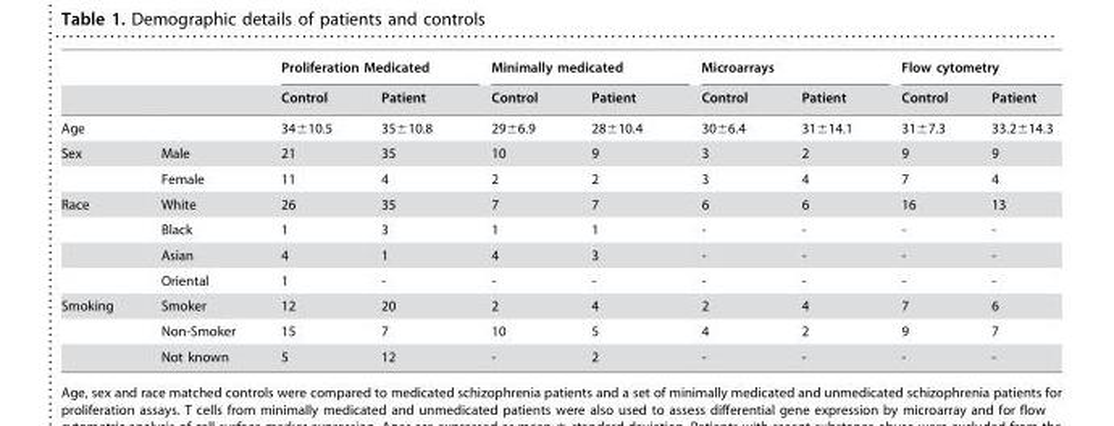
<table><thead><tr><td rowspan="2"></td><td rowspan="2"></td><td colspan="2">Proliferation Medicated</td><td colspan="2">Minimally medicated</td><td colspan="2">Microarrays</td><td colspan="2">Flow cytometry</td></tr><tr><td>Control</td><td>Patient</td><td>Control</td><td>Patient</td><td>Control</td><td>Patient</td><td>Control</td><td>Patient</td></tr></thead><tbody><tr><td>Age</td><td></td><td>34±10.5</td><td>35±10.8</td><td>29±6.9</td><td>28±10.4</td><td>30±6.4</td><td>31±14.1</td><td>31±7.3</td><td>33.2±14.3</td></tr><tr><td rowspan="2">Sex</td><td>Male</td><td>21</td><td>35</td><td>10</td><td>9</td><td>3</td><td>2</td><td>9</td><td>9</td></tr><tr><td>Female</td><td>11</td><td>4</td><td>2</td><td>2</td><td>3</td><td>4</td><td>7</td><td>4</td></tr><tr><td rowspan="4">Race</td><td>White</td><td>26</td><td>35</td><td>7</td><td>7</td><td>6</td><td>6</td><td>16</td><td>13</td></tr><tr><td>Black</td><td>1</td><td>3</td><td>1</td><td>1</td><td>-</td><td>-</td><td>-</td><td>-</td></tr><tr><td>Asian</td><td>4</td><td>1</td><td>4</td><td>3</td><td>-</td><td>-</td><td>-</td><td>-</td></tr><tr><td>Oriental</td><td>1</td><td>-</td><td>-</td><td>-</td><td>-</td><td>-</td><td>-</td><td>-</td></tr><tr><td rowspan="3">Smoking</td><td>Smoker</td><td>12</td><td>20</td><td>2</td><td>4</td><td>2</td><td>4</td><td>7</td><td>6</td></tr><tr><td>Non-Smoker</td><td>15</td><td>7</td><td>10</td><td>5</td><td>4</td><td>2</td><td>9</td><td>7</td></tr><tr><td>Not known</td><td>5</td><td>12</td><td>-</td><td>2</td><td>-</td><td>-</td><td>-</td><td>-</td></tr></tbody></table>